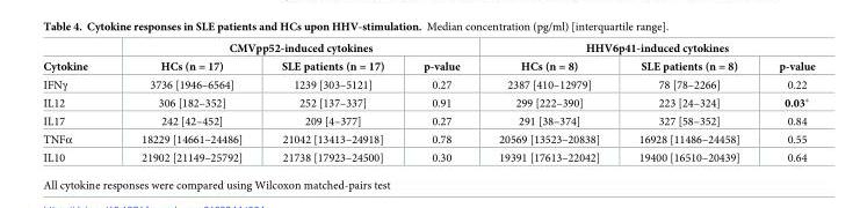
<table><thead><tr><td rowspan="2">Cytokine</td><td colspan="3">CMVpp52-induced cytokines</td><td colspan="3">HHV6p41-induced cytokines</td></tr><tr><td>HCs (n = 17)</td><td>SLE patients (n = 17)</td><td>p-value</td><td>HCs (n = 8)</td><td>SLE patients (n = 8)</td><td>p-value</td></tr></thead><tbody><tr><td>IFNγ</td><td>3736 [1946–6564]</td><td>1239 [303–5121]</td><td>0.27</td><td>2387 [410–12979]</td><td>78 [78–2266]</td><td>0.22</td></tr><tr><td>IL12</td><td>306 [182–352]</td><td>252 [137–337]</td><td>0.91</td><td>299 [222–390]</td><td>223 [24–324]</td><td>0.03*</td></tr><tr><td>IL17</td><td>242 [42–452]</td><td>209 [4–377]</td><td>0.27</td><td>291 [38–374]</td><td>327 [58–352]</td><td>0.84</td></tr><tr><td>TNFα</td><td>18229 [14661–24486]</td><td>21042 [13413–24918]</td><td>0.78</td><td>20569 [13523–20838]</td><td>16928 [11486–24458]</td><td>0.55</td></tr><tr><td>IL10</td><td>21902 [21149–25792]</td><td>21738 [17923–24500]</td><td>0.30</td><td>19391 [17613–22042]</td><td>19400 [16510–20439]</td><td>0.64</td></tr></tbody></table>